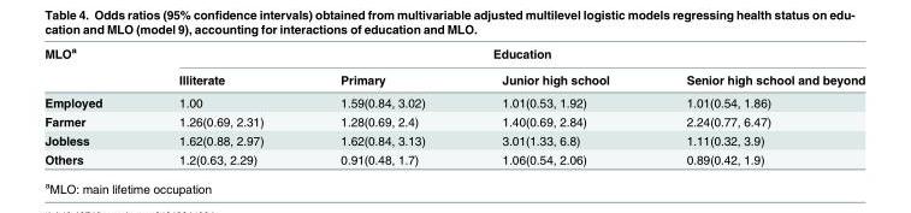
<table><thead><tr><td rowspan="2">MLO<sup>a</sup></td><td colspan="4">Education</td></tr><tr><td>Illiterate</td><td>Primary</td><td>Junior high school</td><td>Senior high school and beyond</td></tr></thead><tbody><tr><td>Employed</td><td>1.00</td><td>1.59(0.84, 3.02)</td><td>1.01(0.53, 1.92)</td><td>1.01(0.54, 1.86)</td></tr><tr><td>Farmer</td><td>1.26(0.69, 2.31)</td><td>1.28(0.69, 2.4)</td><td>1.40(0.69, 2.84)</td><td>2.24(0.77, 6.47)</td></tr><tr><td>Jobless</td><td>1.62(0.88, 2.97)</td><td>1.62(0.84, 3.13)</td><td>3.01(1.33, 6.8)</td><td>1.11(0.32, 3.9)</td></tr><tr><td>Others</td><td>1.2(0.63, 2.29)</td><td>0.91(0.48, 1.7)</td><td>1.06(0.54, 2.06)</td><td>0.89(0.42, 1.9)</td></tr></tbody></table>